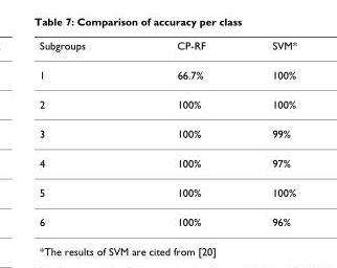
<table><thead><tr><td>Subgroups</td><td>CP-RF</td><td>SVM*</td></tr></thead><tbody><tr><td>1</td><td>66.7%</td><td>100%</td></tr><tr><td>2</td><td>100%</td><td>100%</td></tr><tr><td>3</td><td>100%</td><td>99%</td></tr><tr><td>4</td><td>100%</td><td>97%</td></tr><tr><td>5</td><td>100%</td><td>100%</td></tr><tr><td>6</td><td>100%</td><td>96%</td></tr></tbody></table>